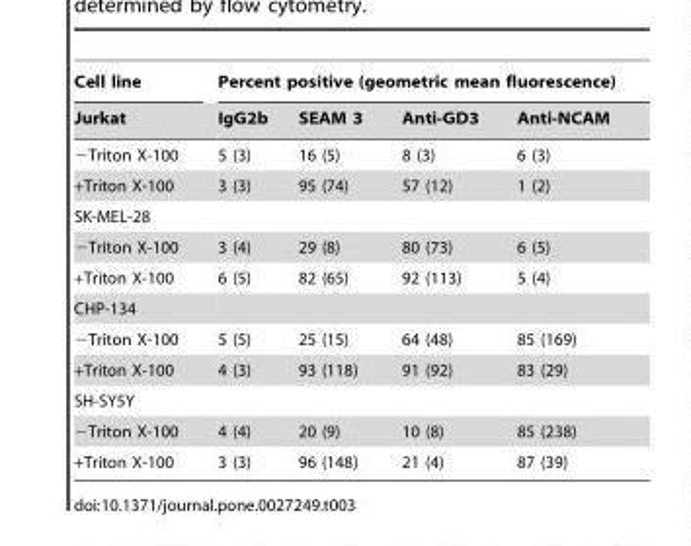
<table><thead><tr><td rowspan="2">Cell line Jurkat</td><td colspan="4">Percent positive (geometric mean fluorescence)</td></tr><tr><td>IgG2b</td><td>SEAM 3</td><td>Anti-GD3</td><td>Anti-NCAM</td></tr></thead><tbody><tr><td>−Triton X-100</td><td>5 (3)</td><td>16 (5)</td><td>8 (3)</td><td>6 (3)</td></tr><tr><td>+Triton X-100</td><td>3 (3)</td><td>95 (74)</td><td>57 (12)</td><td>1 (2)</td></tr><tr><td colspan="5">SK-MEL-28</td></tr><tr><td>−Triton X-100</td><td>3 (4)</td><td>29 (8)</td><td>80 (73)</td><td>6 (5)</td></tr><tr><td>+Triton X-100</td><td>6 (5)</td><td>82 (65)</td><td>92 (113)</td><td>5 (4)</td></tr><tr><td colspan="5">CHP-134</td></tr><tr><td>−Triton X-100</td><td>5 (5)</td><td>25 (15)</td><td>64 (48)</td><td>85 (169)</td></tr><tr><td>+Triton X-100</td><td>4 (3)</td><td>93 (118)</td><td>91 (92)</td><td>83 (29)</td></tr><tr><td colspan="5">SH-SY5Y</td></tr><tr><td>−Triton X-100</td><td>4 (4)</td><td>20 (9)</td><td>10 (8)</td><td>85 (238)</td></tr><tr><td>+Triton X-100</td><td>3 (3)</td><td>96 (148)</td><td>21 (4)</td><td>87 (39)</td></tr></tbody></table>